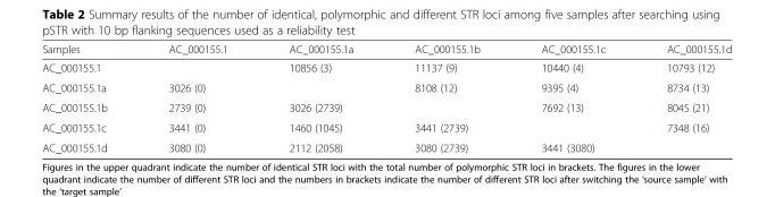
<table><thead><tr><td>Samples</td><td>AC_000155.1</td><td>AC_000155.1a</td><td>AC_000155.1b</td><td>AC_000155.1c</td><td>AC_000155.1d</td></tr></thead><tbody><tr><td>AC_000155.1</td><td></td><td>10856 (3)</td><td>11137 (9)</td><td>10440 (4)</td><td>10793 (12)</td></tr><tr><td>AC_000155.1a</td><td>3026 (0)</td><td></td><td>8108 (12)</td><td>9395 (4)</td><td>8734 (13)</td></tr><tr><td>AC_000155.1b</td><td>2739 (0)</td><td>3026 (2739)</td><td></td><td>7692 (13)</td><td>8045 (21)</td></tr><tr><td>AC_000155.1c</td><td>3441 (0)</td><td>1460 (1045)</td><td>3441 (2739)</td><td></td><td>7348 (16)</td></tr><tr><td>AC_000155.1d</td><td>3080 (0)</td><td>2112 (2058)</td><td>3080 (2739)</td><td>3441 (3080)</td><td></td></tr></tbody></table>